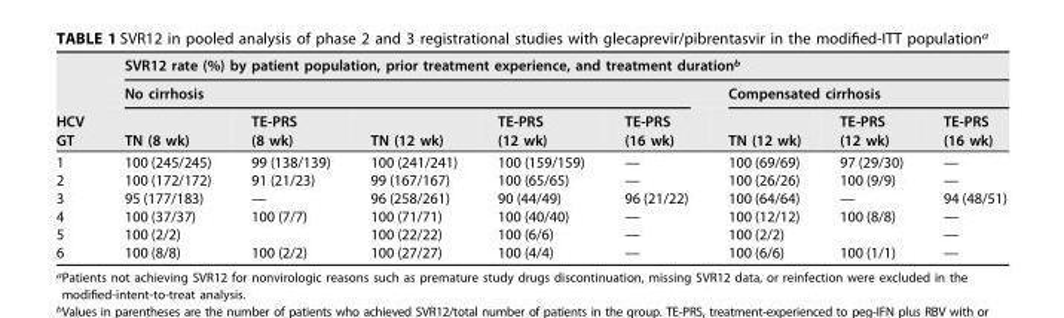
<table><thead><tr><td rowspan="3">HCV GT</td><td colspan="8">SVR12 rate (%) by patient population, prior treatment experience, and treatment duration<sup>b</sup></td></tr><tr><td colspan="5">No cirrhosis</td><td colspan="3">Compensated cirrhosis</td></tr><tr><td>TN (8 wk)</td><td>TE-PRS (8 wk)</td><td>TN (12 wk)</td><td>TE-PRS (12 wk)</td><td>TE-PRS (16 wk)</td><td>TN (12 wk)</td><td>TE-PRS (12 wk)</td><td>TE-PRS (16 wk)</td></tr></thead><tbody><tr><td>1</td><td>100 (245/245)</td><td>99 (138/139)</td><td>100 (241/241)</td><td>100 (159/159)</td><td>—</td><td>100 (69/69)</td><td>97 (29/30)</td><td>—</td></tr><tr><td>2</td><td>100 (172/172)</td><td>91 (21/23)</td><td>99 (167/167)</td><td>100 (65/65)</td><td>—</td><td>100 (26/26)</td><td>100 (9/9)</td><td>—</td></tr><tr><td>3</td><td>95 (177/183)</td><td>—</td><td>96 (258/261)</td><td>90 (44/49)</td><td>96 (21/22)</td><td>100 (64/64)</td><td>—</td><td>94 (48/51)</td></tr><tr><td>4</td><td>100 (37/37)</td><td>100 (7/7)</td><td>100 (71/71)</td><td>100 (40/40)</td><td>—</td><td>100 (12/12)</td><td>100 (8/8)</td><td>—</td></tr><tr><td>5</td><td>100 (2/2)</td><td></td><td>100 (22/22)</td><td>100 (6/6)</td><td>—</td><td>100 (2/2)</td><td></td><td>—</td></tr><tr><td>6</td><td>100 (8/8)</td><td>100 (2/2)</td><td>100 (27/27)</td><td>100 (4/4)</td><td>—</td><td>100 (6/6)</td><td>100 (1/1)</td><td>—</td></tr></tbody></table>